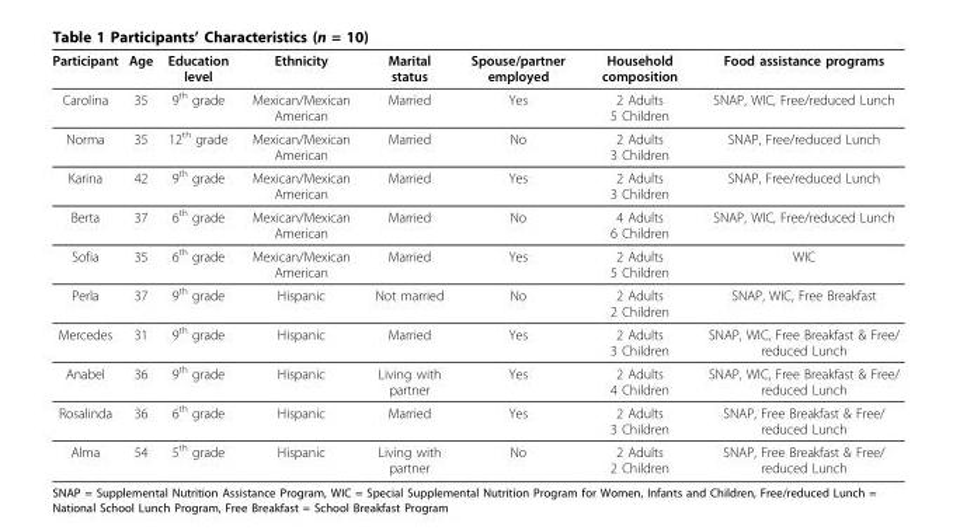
<table><thead><tr><td>Participant</td><td>Age</td><td>Education level</td><td>Ethnicity</td><td>Marital status</td><td>Spouse/partner employed</td><td>Household composition</td><td>Food assistance programs</td></tr></thead><tbody><tr><td>Carolina</td><td>35</td><td>9<sup>th</sup> grade</td><td>Mexican/Mexican American</td><td>Married</td><td>Yes</td><td>2 Adults 5 Children</td><td>SNAP, WIC, Free/reduced Lunch</td></tr><tr><td>Norma</td><td>35</td><td>12<sup>th</sup> grade</td><td>Mexican/Mexican American</td><td>Married</td><td>No</td><td>2 Adults 3 Children</td><td>SNAP, Free/reduced Lunch</td></tr><tr><td>Karina</td><td>42</td><td>9<sup>th</sup> grade</td><td>Mexican/Mexican American</td><td>Married</td><td>Yes</td><td>2 Adults 3 Children</td><td>SNAP, Free/reduced Lunch</td></tr><tr><td>Berta</td><td>37</td><td>6<sup>th</sup> grade</td><td>Mexican/Mexican American</td><td>Married</td><td>No</td><td>4 Adults 6 Children</td><td>SNAP, WIC, Free/reduced Lunch</td></tr><tr><td>Sofia</td><td>35</td><td>6<sup>th</sup> grade</td><td>Mexican/Mexican American</td><td>Married</td><td>Yes</td><td>2 Adults 5 Children</td><td>WIC</td></tr><tr><td>Perla</td><td>37</td><td>9<sup>th</sup> grade</td><td>Hispanic</td><td>Not married</td><td>No</td><td>2 Adults 2 Children</td><td>SNAP, WIC, Free Breakfast</td></tr><tr><td>Mercedes</td><td>31</td><td>9<sup>th</sup> grade</td><td>Hispanic</td><td>Married</td><td>Yes</td><td>2 Adults 3 Children</td><td>SNAP, WIC, Free Breakfast &amp; Free/ reduced Lunch</td></tr><tr><td>Anabel</td><td>36</td><td>9<sup>th</sup> grade</td><td>Hispanic</td><td>Living with partner</td><td>Yes</td><td>2 Adults 4 Children</td><td>SNAP, WIC, Free Breakfast &amp; Free/ reduced Lunch</td></tr><tr><td>Rosalinda</td><td>36</td><td>6<sup>th</sup> grade</td><td>Hispanic</td><td>Married</td><td>Yes</td><td>2 Adults 3 Children</td><td>SNAP, Free Breakfast &amp; Free/ reduced Lunch</td></tr><tr><td>Alma</td><td>54</td><td>5<sup>th</sup> grade</td><td>Hispanic</td><td>Living with partner</td><td>No</td><td>2 Adults 2 Children</td><td>SNAP, Free Breakfast &amp; Free/ reduced Lunch</td></tr></tbody></table>